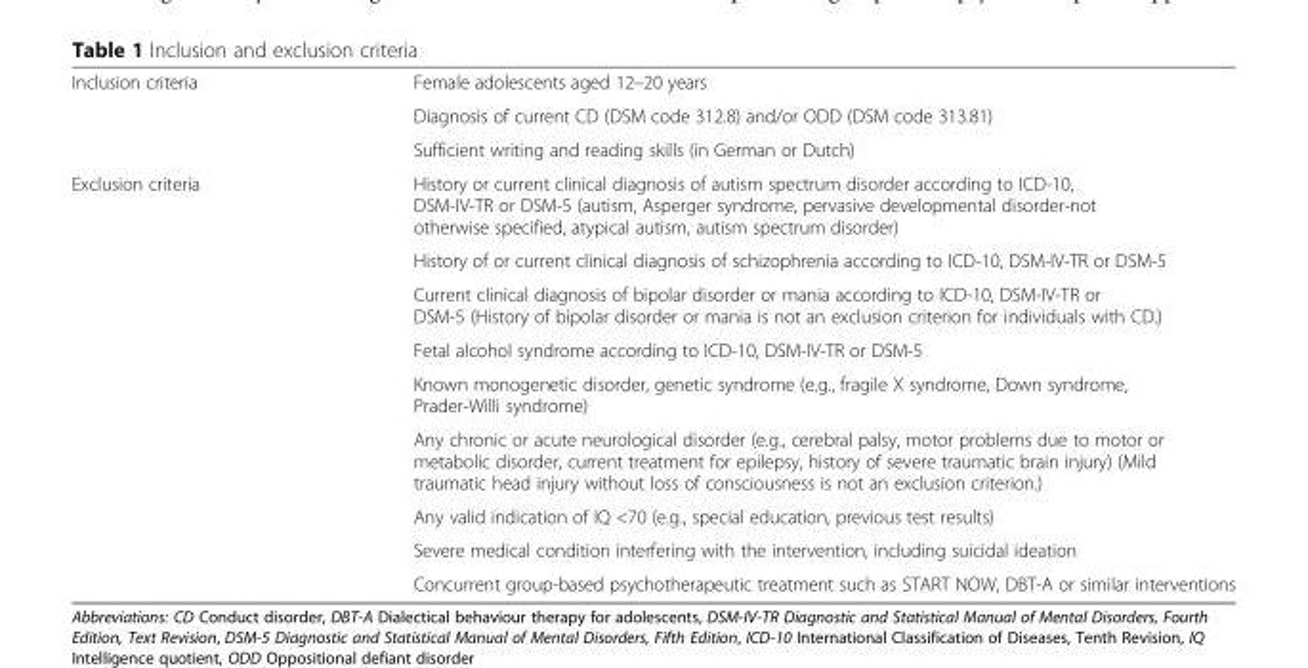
<table><tbody><tr><td rowspan="3">Inclusion criteria</td><td>Female adolescents aged 12–20 years</td></tr><tr><td>Diagnosis of current CD (DSM code 312.8) and/or ODD (DSM code 313.81)</td></tr><tr><td>Sufficient writing and reading skills (in German or Dutch)</td></tr><tr><td rowspan="9">Exclusion criteria</td><td>History or current clinical diagnosis of autism spectrum disorder according to ICD-10, DSM-IV-TR or DSM-5 (autism, Asperger syndrome, pervasive developmental disorder-not otherwise specified, atypical autism, autism spectrum disorder)</td></tr><tr><td>History of or current clinical diagnosis of schizophrenia according to ICD-10, DSM-IV-TR or DSM-5</td></tr><tr><td>Current clinical diagnosis of bipolar disorder or mania according to ICD-10, DSM-IV-TR or DSM-5 (History of bipolar disorder or mania is not an exclusion criterion for individuals with CD.)</td></tr><tr><td>Fetal alcohol syndrome according to ICD-10, DSM-IV-TR or DSM-5</td></tr><tr><td>Known monogenetic disorder, genetic syndrome (e.g., fragile X syndrome, Down syndrome, Prader-Willi syndrome)</td></tr><tr><td>Any chronic or acute neurological disorder (e.g., cerebral palsy, motor problems due to motor or metabolic disorder, current treatment for epilepsy, history of severe traumatic brain injury) (Mild traumatic head injury without loss of consciousness is not an exclusion criterion.)</td></tr><tr><td>Any valid indication of IQ &lt;70 (e.g., special education, previous test results)</td></tr><tr><td>Severe medical condition interfering with the intervention, including suicidal ideation</td></tr><tr><td>Concurrent group-based psychotherapeutic treatment such as START NOW, DBT-A or similar interventions</td></tr></tbody></table>